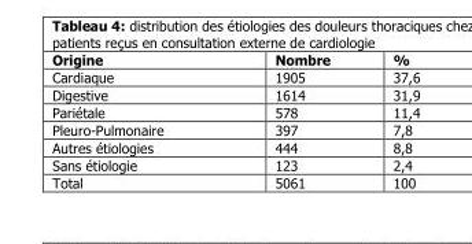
<table><thead><tr><td>Origine</td><td>Nombre</td><td>%</td></tr></thead><tbody><tr><td>Cardiaque</td><td>1905</td><td>37,6</td></tr><tr><td>Digestive</td><td>1614</td><td>31,9</td></tr><tr><td>Pariétale</td><td>578</td><td>11,4</td></tr><tr><td>Pleuro-Pulmonaire</td><td>397</td><td>7,8</td></tr><tr><td>Autres étiologies</td><td>444</td><td>8,8</td></tr><tr><td>Sans étiologie</td><td>123</td><td>2,4</td></tr><tr><td>Total</td><td>5061</td><td>100</td></tr></tbody></table>